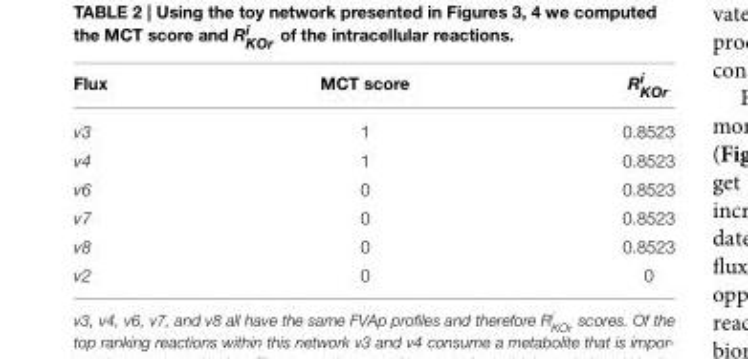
<table><thead><tr><td>Flux</td><td>MCT score</td><td>R<sup>i</sup> <sub>KOr</sub></td></tr></thead><tbody><tr><td>v3</td><td>1</td><td>0.8523</td></tr><tr><td>v4</td><td>1</td><td>0.8523</td></tr><tr><td>v6</td><td>0</td><td>0.8523</td></tr><tr><td>v7</td><td>0</td><td>0.8523</td></tr><tr><td>v8</td><td>0</td><td>0.8523</td></tr><tr><td>v2</td><td>0</td><td>0</td></tr></tbody></table>